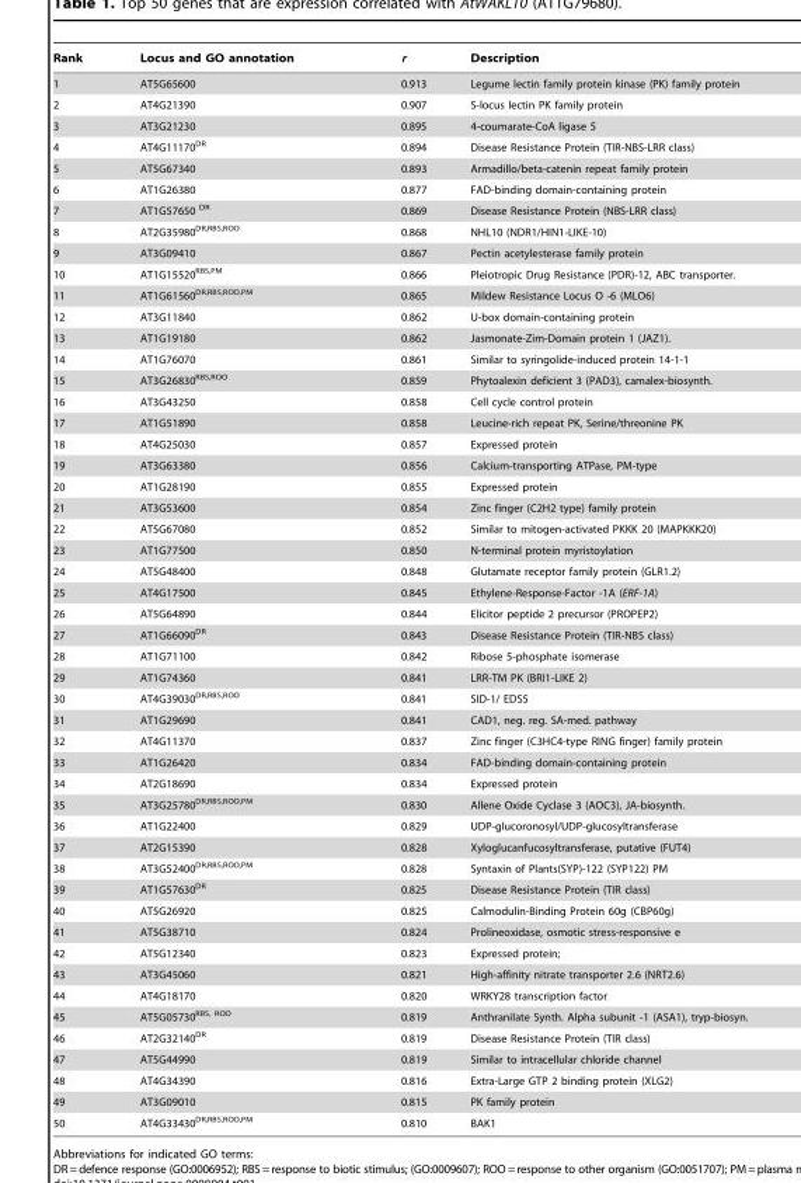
<table><thead><tr><td>Rank</td><td>Locus and GO annotation</td><td>r</td><td>Description</td></tr></thead><tbody><tr><td>1</td><td>AT5G65600</td><td>0.913</td><td>Legume lectin family protein kinase (PK) family protein</td></tr><tr><td>2</td><td>AT4G21390</td><td>0.907</td><td>S-locus lectin PK family protein</td></tr><tr><td>3</td><td>AT3G21230</td><td>0.895</td><td>4-coumarate-CoA ligase 5</td></tr><tr><td>4</td><td>AT4G11170<sup>DR</sup></td><td>0.894</td><td>Disease Resistance Protein (TIR-NBS-LRR class)</td></tr><tr><td>5</td><td>AT5G67340</td><td>0.893</td><td>Armadillo/beta-catenin repeat family protein</td></tr><tr><td>6</td><td>AT1G26380</td><td>0.877</td><td>FAD-binding domain-containing protein</td></tr><tr><td>7</td><td>AT1G57650 <sup>DR</sup></td><td>0.869</td><td>Disease Resistance Protein (NBS-LRR class)</td></tr><tr><td>8</td><td>AT2G35980<sup>DR,RBS,ROO</sup></td><td>0.868</td><td>NHL10 (NDR1/HIN1-LIKE-10)</td></tr><tr><td>9</td><td>AT3G09410</td><td>0.867</td><td>Pectin acetylesterase family protein</td></tr><tr><td>10</td><td>AT1G15520<sup>RBS,PM</sup></td><td>0.866</td><td>Pleiotropic Drug Resistance (PDR)-12, ABC transporter.</td></tr><tr><td>11</td><td>AT1G61560<sup>DR,RBS,ROO,PM</sup></td><td>0.865</td><td>Mildew Resistance Locus O -6 (MLO6)</td></tr><tr><td>12</td><td>AT3G11840</td><td>0.862</td><td>U-box domain-containing protein</td></tr><tr><td>13</td><td>AT1G19180</td><td>0.862</td><td>Jasmonate-Zim-Domain protein 1 (JAZ1).</td></tr><tr><td>14</td><td>AT1G76070</td><td>0.861</td><td>Similar to syringolide-induced protein 14-1-1</td></tr><tr><td>15</td><td>AT3G26830<sup>RBS,ROO</sup></td><td>0.859</td><td>Phytoalexin deficient 3 (PAD3), camalex-biosynth.</td></tr><tr><td>16</td><td>AT3G43250</td><td>0.858</td><td>Cell cycle control protein</td></tr><tr><td>17</td><td>AT1G51890</td><td>0.858</td><td>Leucine-rich repeat PK, Serine/threonine PK</td></tr><tr><td>18</td><td>AT4G25030</td><td>0.857</td><td>Expressed protein</td></tr><tr><td>19</td><td>AT3G63380</td><td>0.856</td><td>Calcium-transporting ATPase, PM-type</td></tr><tr><td>20</td><td>AT1G28190</td><td>0.855</td><td>Expressed protein</td></tr><tr><td>21</td><td>AT3G53600</td><td>0.854</td><td>Zinc finger (C2H2 type) family protein</td></tr><tr><td>22</td><td>AT5G67080</td><td>0.852</td><td>Similar to mitogen-activated PKKK 20 (MAPKKK20)</td></tr><tr><td>23</td><td>AT1G77500</td><td>0.850</td><td>N-terminal protein myristoylation</td></tr><tr><td>24</td><td>AT5G48400</td><td>0.848</td><td>Glutamate receptor family protein (GLR1.2)</td></tr><tr><td>25</td><td>AT4G17500</td><td>0.845</td><td>Ethylene-Response-Factor -1A (ERF-1A)</td></tr><tr><td>26</td><td>AT5G64890</td><td>0.844</td><td>Elicitor peptide 2 precursor (PROPEP2)</td></tr><tr><td>27</td><td>AT1G66090<sup>DR</sup></td><td>0.843</td><td>Disease Resistance Protein (TIR-NBS class)</td></tr><tr><td>28</td><td>AT1G71100</td><td>0.842</td><td>Ribose 5-phosphate isomerase</td></tr><tr><td>29</td><td>AT1G74360</td><td>0.841</td><td>LRR-TM PK (BRI1-LIKE 2)</td></tr><tr><td>30</td><td>AT4G39030<sup>DR,RBS,ROO</sup></td><td>0.841</td><td>SID-1/ EDS5</td></tr><tr><td>31</td><td>AT1G29690</td><td>0.841</td><td>CAD1, neg. reg. SA-med. pathway</td></tr><tr><td>32</td><td>AT4G11370</td><td>0.837</td><td>Zinc finger (C3HC4-type RING finger) family protein</td></tr><tr><td>33</td><td>AT1G26420</td><td>0.834</td><td>FAD-binding domain-containing protein</td></tr><tr><td>34</td><td>AT2G18690</td><td>0.834</td><td>Expressed protein</td></tr><tr><td>35</td><td>AT3G25780<sup>DR,RBS,ROO,PM</sup></td><td>0.830</td><td>Allene Oxide Cyclase 3 (AOC3), JA-biosynth.</td></tr><tr><td>36</td><td>AT1G22400</td><td>0.829</td><td>UDP-glucoronosyl/UDP-glucosyltransferase</td></tr><tr><td>37</td><td>AT2G15390</td><td>0.828</td><td>Xyloglucanfucosyltransferase, putative (FUT4)</td></tr><tr><td>38</td><td>AT3G52400<sup>DR,RBS,ROO,PM</sup></td><td>0.828</td><td>Syntaxin of Plants(SYP)-122 (SYP122) PM</td></tr><tr><td>39</td><td>AT1G57630<sup>DR</sup></td><td>0.825</td><td>Disease Resistance Protein (TIR class)</td></tr><tr><td>40</td><td>AT5G26920</td><td>0.825</td><td>Calmodulin-Binding Protein 60g (CBP60g)</td></tr><tr><td>41</td><td>AT5G38710</td><td>0.824</td><td>Prolineoxidase, osmotic stress-responsive e</td></tr><tr><td>42</td><td>AT5G12340</td><td>0.823</td><td>Expressed protein;</td></tr><tr><td>43</td><td>AT3G45060</td><td>0.821</td><td>High-affinity nitrate transporter 2.6 (NRT2.6)</td></tr><tr><td>44</td><td>AT4G18170</td><td>0.820</td><td>WRKY28 transcription factor</td></tr><tr><td>45</td><td>AT5G05730<sup>RBS, ROO</sup></td><td>0.819</td><td>Anthranilate Synth. Alpha subunit -1 (ASA1), tryp-biosyn.</td></tr><tr><td>46</td><td>AT2G32140<sup>DR</sup></td><td>0.819</td><td>Disease Resistance Protein (TIR class)</td></tr><tr><td>47</td><td>AT5G44990</td><td>0.819</td><td>Similar to intracellular chloride channel</td></tr><tr><td>48</td><td>AT4G34390</td><td>0.816</td><td>Extra-Large GTP 2 binding protein (XLG2)</td></tr><tr><td>49</td><td>AT3G09010</td><td>0.815</td><td>PK family protein</td></tr><tr><td>50</td><td>AT4G33430<sup>DR,RBS,ROO,PM</sup></td><td>0.810</td><td>BAK1</td></tr></tbody></table>